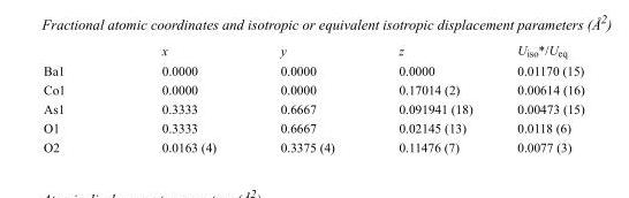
<table><thead><tr><td></td><td>x</td><td>y</td><td>z</td><td>U<sub>iso</sub>*/U<sub>eq</sub></td></tr></thead><tbody><tr><td>Ba1</td><td>0.0000</td><td>0.0000</td><td>0.0000</td><td>0.01170 (15)</td></tr><tr><td>Co1</td><td>0.0000</td><td>0.0000</td><td>0.17014 (2)</td><td>0.00614 (16)</td></tr><tr><td>As1</td><td>0.3333</td><td>0.6667</td><td>0.091941 (18)</td><td>0.00473 (15)</td></tr><tr><td>O1</td><td>0.3333</td><td>0.6667</td><td>0.02145 (13)</td><td>0.0118 (6)</td></tr><tr><td>O2</td><td>0.0163 (4)</td><td>0.3375 (4)</td><td>0.11476 (7)</td><td>0.0077 (3)</td></tr></tbody></table>